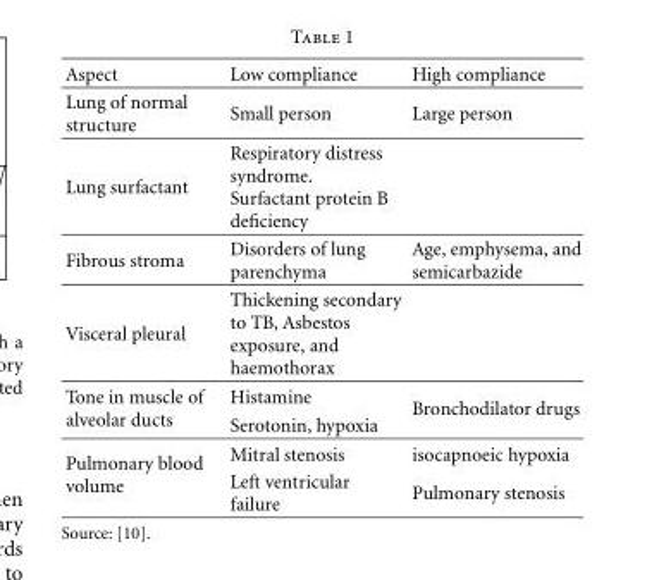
<table><thead><tr><td>Aspect</td><td>Low compliance</td><td>High compliance</td></tr></thead><tbody><tr><td>Lung of normal structure</td><td>Small person</td><td>Large person</td></tr><tr><td>Lung surfactant</td><td>Respiratory distress syndrome. Surfactant protein B deficiency</td><td></td></tr><tr><td>Fibrous stroma</td><td>Disorders of lung parenchyma</td><td>Age, emphysema, and semicarbazide</td></tr><tr><td>Visceral pleural</td><td>Thickening secondary to TB, Asbestos exposure, and haemothorax</td><td></td></tr><tr><td rowspan="2">Tone in muscle of alveolar ducts</td><td>Histamine</td><td rowspan="2">Bronchodilator drugs</td></tr><tr><td>Serotonin, hypoxia</td></tr><tr><td rowspan="2">Pulmonary blood volume</td><td>Mitral stenosis</td><td>isocapnoeic hypoxia</td></tr><tr><td>Left ventricular failure</td><td>Pulmonary stenosis</td></tr></tbody></table>